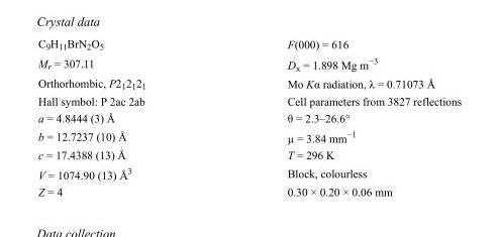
<table><tbody><tr><td>C<sub>9</sub>H<sub>11</sub>BrN<sub>2</sub>O<sub>5</sub></td><td>F(000) = 616</td></tr><tr><td>M<sub>r</sub> = 307.11</td><td>D<sub>x</sub> = 1.898 Mg m<sup>−3</sup></td></tr><tr><td>Orthorhombic, P2<sub>1</sub>2<sub>1</sub>2<sub>1</sub></td><td>Mo Kα radiation, λ = 0.71073 Å</td></tr><tr><td>Hall symbol: P 2ac 2ab</td><td>Cell parameters from 3827 reflections</td></tr><tr><td>a = 4.8444 (3) Å</td><td>θ = 2.3–26.6°</td></tr><tr><td>b = 12.7237 (10) Å</td><td>µ = 3.84 mm<sup>−1</sup></td></tr><tr><td>c = 17.4388 (13) Å</td><td>T = 296 K</td></tr><tr><td>V = 1074.90 (13) Å<sup>3</sup></td><td>Block, colourless</td></tr><tr><td>Z = 4</td><td>0.30 × 0.20 × 0.06 mm</td></tr></tbody></table>